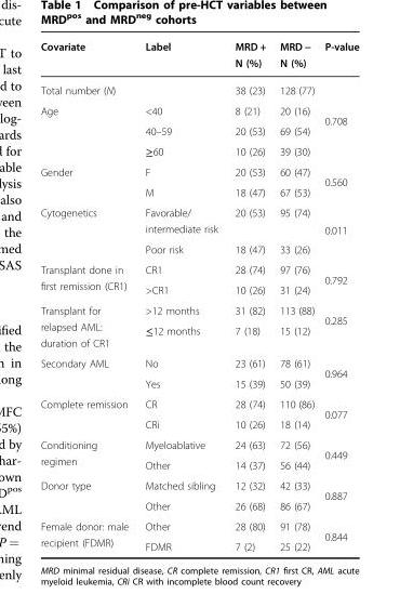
<table><thead><tr><td>Covariate</td><td>Label</td><td>MRD + N (%)</td><td>MRD − N (%)</td><td>P-value</td></tr></thead><tbody><tr><td>Total number (N)</td><td></td><td>38 (23)</td><td>128 (77)</td><td></td></tr><tr><td rowspan="3">Age</td><td>&lt;40</td><td>8 (21)</td><td>20 (16)</td><td rowspan="3">0.708</td></tr><tr><td>40–59</td><td>20 (53)</td><td>69 (54)</td></tr><tr><td>≥60</td><td>10 (26)</td><td>39 (30)</td></tr><tr><td rowspan="2">Gender</td><td>F</td><td>20 (53)</td><td>60 (47)</td><td rowspan="2">0.560</td></tr><tr><td>M</td><td>18 (47)</td><td>67 (53)</td></tr><tr><td rowspan="2">Cytogenetics</td><td>Favorable/ intermediate risk</td><td>20 (53)</td><td>95 (74)</td><td rowspan="2">0.011</td></tr><tr><td>Poor risk</td><td>18 (47)</td><td>33 (26)</td></tr><tr><td rowspan="2">Transplant done in first remission (CR1)</td><td>CR1</td><td>28 (74)</td><td>97 (76)</td><td rowspan="2">0.792</td></tr><tr><td>&gt;CR1</td><td>10 (26)</td><td>31 (24)</td></tr><tr><td rowspan="2">Transplant for relapsed AML: duration of CR1</td><td>&gt;12 months</td><td>31 (82)</td><td>113 (88)</td><td rowspan="2">0.285</td></tr><tr><td>≤12 months</td><td>7 (18)</td><td>15 (12)</td></tr><tr><td rowspan="2">Secondary AML</td><td>No</td><td>23 (61)</td><td>78 (61)</td><td rowspan="2">0.964</td></tr><tr><td>Yes</td><td>15 (39)</td><td>50 (39)</td></tr><tr><td rowspan="2">Complete remission</td><td>CR</td><td>28 (74)</td><td>110 (86)</td><td rowspan="2">0.077</td></tr><tr><td>CRi</td><td>10 (26)</td><td>18 (14)</td></tr><tr><td rowspan="2">Conditioning regimen</td><td>Myeloablative</td><td>24 (63)</td><td>72 (56)</td><td rowspan="2">0.449</td></tr><tr><td>Other</td><td>14 (37)</td><td>56 (44)</td></tr><tr><td rowspan="2">Donor type</td><td>Matched sibling</td><td>12 (32)</td><td>42 (33)</td><td rowspan="2">0.887</td></tr><tr><td>Other</td><td>26 (68)</td><td>86 (67)</td></tr><tr><td rowspan="2">Female donor: male recipient (FDMR)</td><td>Other</td><td>28 (80)</td><td>91 (78)</td><td rowspan="2">0.844</td></tr><tr><td>FDMR</td><td>7 (2)</td><td>25 (22)</td></tr></tbody></table>